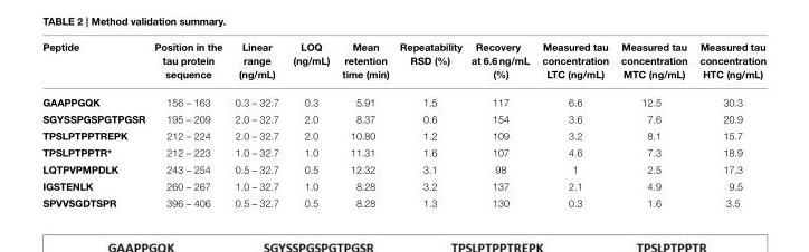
<table><thead><tr><td>Peptide</td><td>Position in the tau protein sequence</td><td>Linear range (ng/mL)</td><td>LOQ (ng/mL)</td><td>Mean retention time (min)</td><td>Repeatability RSD (%)</td><td>Recovery at 6.6 ng/mL (%)</td><td>Measured tau concentration LTC (ng/mL)</td><td>Measured tau concentration MTC (ng/mL)</td><td>Measured tau concentration HTC (ng/mL)</td></tr></thead><tbody><tr><td>GAAPPGQK</td><td>156 – 163</td><td>0.3 – 32.7</td><td>0.3</td><td>5.91</td><td>1.5</td><td>117</td><td>6.6</td><td>12.5</td><td>30.3</td></tr><tr><td>SGYSSPGSPGTPGSR</td><td>195 – 209</td><td>2.0 – 32.7</td><td>2.0</td><td>8.37</td><td>0.6</td><td>154</td><td>3.6</td><td>7.6</td><td>20.9</td></tr><tr><td>TPSLPTPPTREPK</td><td>212 – 224</td><td>2.0 – 32.7</td><td>2.0</td><td>10.80</td><td>1.2</td><td>109</td><td>3.2</td><td>8.1</td><td>15.7</td></tr><tr><td>TPSLPTPPTR*</td><td>212 – 223</td><td>1.0 – 32.7</td><td>1.0</td><td>11.31</td><td>1.6</td><td>107</td><td>4.6</td><td>7.3</td><td>18.9</td></tr><tr><td>LQTPVPMPDLK</td><td>243 – 254</td><td>0.5 – 32.7</td><td>0.5</td><td>12.32</td><td>3.1</td><td>98</td><td>1</td><td>2.5</td><td>17.3</td></tr><tr><td>IGSTENLK</td><td>260 – 267</td><td>1.0 – 32.7</td><td>1.0</td><td>8.28</td><td>3.2</td><td>137</td><td>2.1</td><td>4.9</td><td>9.5</td></tr><tr><td>SPVVSGDTSPR</td><td>396 – 406</td><td>0.5 – 32.7</td><td>0.5</td><td>8.28</td><td>1.3</td><td>130</td><td>0.3</td><td>1.6</td><td>3.5</td></tr></tbody></table>